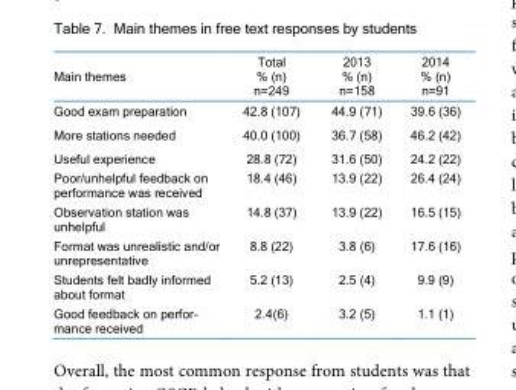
<table><thead><tr><td>Main themes</td><td>Total % (n) n=249</td><td>2013 % (n) n=158</td><td>2014 % (n) n=91</td></tr></thead><tbody><tr><td>Good exam preparation</td><td>42.8 (107)</td><td>44.9 (71)</td><td>39.6 (36)</td></tr><tr><td>More stations needed</td><td>40.0 (100)</td><td>36.7 (58)</td><td>46.2 (42)</td></tr><tr><td>Useful experience</td><td>28.8 (72)</td><td>31.6 (50)</td><td>24.2 (22)</td></tr><tr><td>Poor/unhelpful feedback on performance was received</td><td>18.4 (46)</td><td>13.9 (22)</td><td>26.4 (24)</td></tr><tr><td>Observation station was unhelpful</td><td>14.8 (37)</td><td>13.9 (22)</td><td>16.5 (15)</td></tr><tr><td>Format was unrealistic and/or unrepresentative</td><td>8.8 (22)</td><td>3.8 (6)</td><td>17.6 (16)</td></tr><tr><td>Students felt badly informed about format</td><td>5.2 (13)</td><td>2.5 (4)</td><td>9.9 (9)</td></tr><tr><td>Good feedback on perfor- mance received</td><td>2.4(6)</td><td>3.2 (5)</td><td>1.1 (1)</td></tr></tbody></table>